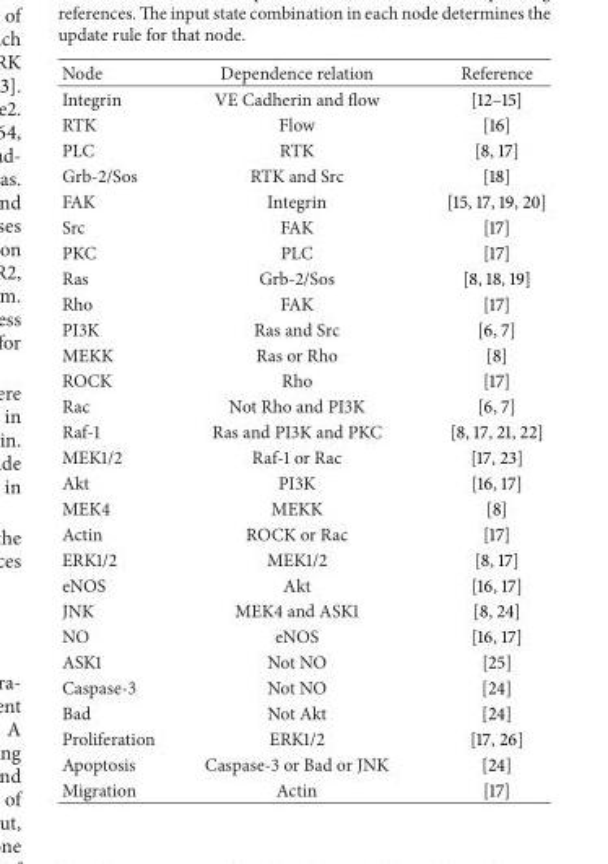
<table><thead><tr><td>Node</td><td>Dependence relation</td><td>Reference</td></tr></thead><tbody><tr><td>Integrin</td><td>VE Cadherin and flow</td><td>[12–15]</td></tr><tr><td>RTK</td><td>Flow</td><td>[16]</td></tr><tr><td>PLC</td><td>RTK</td><td>[8, 17]</td></tr><tr><td>Grb-2/Sos</td><td>RTK and Src</td><td>[18]</td></tr><tr><td>FAK</td><td>Integrin</td><td>[15, 17, 19, 20]</td></tr><tr><td>Src</td><td>FAK</td><td>[17]</td></tr><tr><td>PKC</td><td>PLC</td><td>[17]</td></tr><tr><td>Ras</td><td>Grb-2/Sos</td><td>[8, 18, 19]</td></tr><tr><td>Rho</td><td>FAK</td><td>[17]</td></tr><tr><td>PI3K</td><td>Ras and Src</td><td>[6, 7]</td></tr><tr><td>MEKK</td><td>Ras or Rho</td><td>[8]</td></tr><tr><td>ROCK</td><td>Rho</td><td>[17]</td></tr><tr><td>Rac</td><td>Not Rho and PI3K</td><td>[6, 7]</td></tr><tr><td>Raf-1</td><td>Ras and PI3K and PKC</td><td>[8, 17, 21, 22]</td></tr><tr><td>MEK1/2</td><td>Raf-1 or Rac</td><td>[17, 23]</td></tr><tr><td>Akt</td><td>PI3K</td><td>[16, 17]</td></tr><tr><td>MEK4</td><td>MEKK</td><td>[8]</td></tr><tr><td>Actin</td><td>ROCK or Rac</td><td>[17]</td></tr><tr><td>ERK1/2</td><td>MEK1/2</td><td>[8, 17]</td></tr><tr><td>eNOS</td><td>Akt</td><td>[16, 17]</td></tr><tr><td>JNK</td><td>MEK4 and ASK1</td><td>[8, 24]</td></tr><tr><td>NO</td><td>eNOS</td><td>[16, 17]</td></tr><tr><td>ASK1</td><td>Not NO</td><td>[25]</td></tr><tr><td>Caspase-3</td><td>Not NO</td><td>[24]</td></tr><tr><td>Bad</td><td>Not Akt</td><td>[24]</td></tr><tr><td>Proliferation</td><td>ERK1/2</td><td>[17, 26]</td></tr><tr><td>Apoptosis</td><td>Caspase-3 or Bad or JNK</td><td>[24]</td></tr><tr><td>Migration</td><td>Actin</td><td>[17]</td></tr></tbody></table>